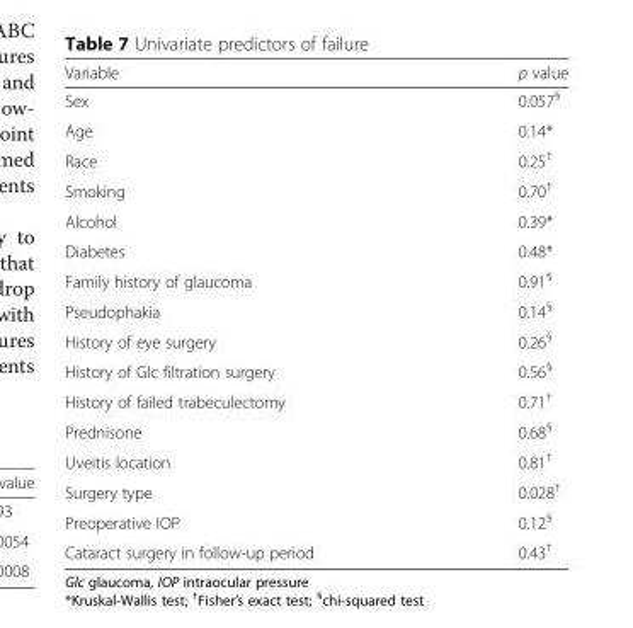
<table><thead><tr><td>Variable</td><td>p value</td></tr></thead><tbody><tr><td>Sex</td><td>0.057<sup>§</sup></td></tr><tr><td>Age</td><td>0.14*</td></tr><tr><td>Race</td><td>0.25<sup>†</sup></td></tr><tr><td>Smoking</td><td>0.70<sup>†</sup></td></tr><tr><td>Alcohol</td><td>0.39*</td></tr><tr><td>Diabetes</td><td>0.48*</td></tr><tr><td>Family history of glaucoma</td><td>0.91<sup>§</sup></td></tr><tr><td>Pseudophakia</td><td>0.14<sup>§</sup></td></tr><tr><td>History of eye surgery</td><td>0.26<sup>§</sup></td></tr><tr><td>History of Glc filtration surgery</td><td>0.56<sup>§</sup></td></tr><tr><td>History of failed trabeculectomy</td><td>0.71<sup>†</sup></td></tr><tr><td>Prednisone</td><td>0.68<sup>§</sup></td></tr><tr><td>Uveitis location</td><td>0.81<sup>†</sup></td></tr><tr><td>Surgery type</td><td>0.028<sup>†</sup></td></tr><tr><td>Preoperative IOP</td><td>0.12<sup>§</sup></td></tr><tr><td>Cataract surgery in follow-up period</td><td>0.43<sup>†</sup></td></tr></tbody></table>